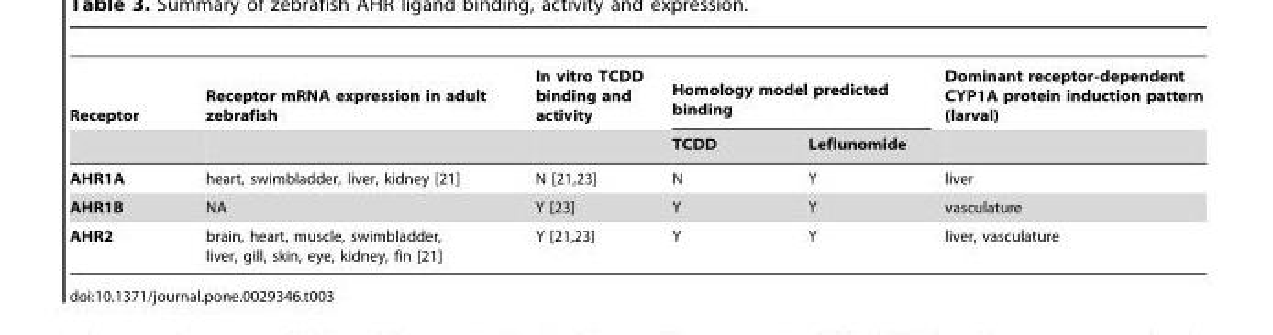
<table><thead><tr><td rowspan="2">Receptor</td><td rowspan="2">Receptor mRNA expression in adult zebrafish</td><td rowspan="2">In vitro TCDD binding and activity</td><td colspan="2">Homology model predicted binding</td><td rowspan="2">Dominant receptor-dependent CYP1A protein induction pattern (larval)</td></tr><tr><td>TCDD</td><td>Leflunomide</td></tr></thead><tbody><tr><td>AHR1A</td><td>heart, swimbladder, liver, kidney [21]</td><td>N [21,23]</td><td>N</td><td>Y</td><td>liver</td></tr><tr><td>AHR1B</td><td>NA</td><td>Y [23]</td><td>Y</td><td>Y</td><td>vasculature</td></tr><tr><td>AHR2</td><td>brain, heart, muscle, swimbladder, liver, gill, skin, eye, kidney, fin [21]</td><td>Y [21,23]</td><td>Y</td><td>Y</td><td>liver, vasculature</td></tr></tbody></table>